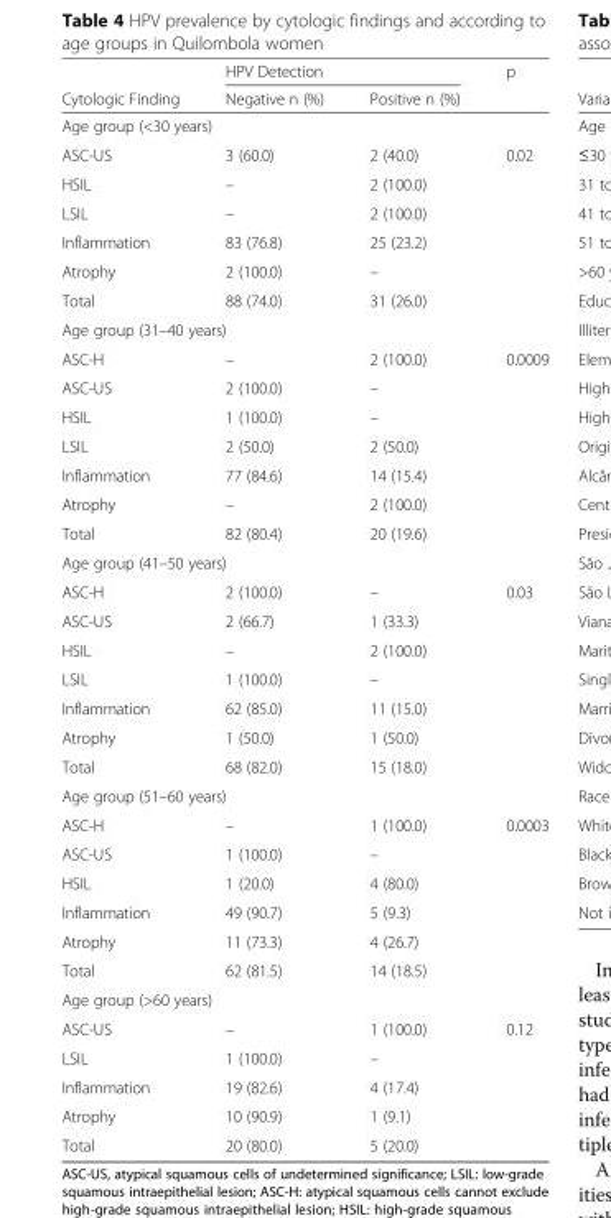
<table><thead><tr><td rowspan="2">Cytologic Finding</td><td colspan="2">HPV Detection</td><td rowspan="2">p</td></tr><tr><td>Negative n (%)</td><td>Positive n (%)</td></tr></thead><tbody><tr><td colspan="4">Age group (&lt;30 years)</td></tr><tr><td>ASC-US</td><td>3 (60.0)</td><td>2 (40.0)</td><td>0.02</td></tr><tr><td>HSIL</td><td>–</td><td>2 (100.0)</td><td></td></tr><tr><td>LSIL</td><td>–</td><td>2 (100.0)</td><td></td></tr><tr><td>Inflammation</td><td>83 (76.8)</td><td>25 (23.2)</td><td></td></tr><tr><td>Atrophy</td><td>2 (100.0)</td><td>–</td><td></td></tr><tr><td>Total</td><td>88 (74.0)</td><td>31 (26.0)</td><td></td></tr><tr><td colspan="4">Age group (31–40 years)</td></tr><tr><td>ASC-H</td><td>–</td><td>2 (100.0)</td><td>0.0009</td></tr><tr><td>ASC-US</td><td>2 (100.0)</td><td>–</td><td></td></tr><tr><td>HSIL</td><td>1 (100.0)</td><td>–</td><td></td></tr><tr><td>LSIL</td><td>2 (50.0)</td><td>2 (50.0)</td><td></td></tr><tr><td>Inflammation</td><td>77 (84.6)</td><td>14 (15.4)</td><td></td></tr><tr><td>Atrophy</td><td>–</td><td>2 (100.0)</td><td></td></tr><tr><td>Total</td><td>82 (80.4)</td><td>20 (19.6)</td><td></td></tr><tr><td colspan="4">Age group (41–50 years)</td></tr><tr><td>ASC-H</td><td>2 (100.0)</td><td>–</td><td>0.03</td></tr><tr><td>ASC-US</td><td>2 (66.7)</td><td>1 (33.3)</td><td></td></tr><tr><td>HSIL</td><td>–</td><td>2 (100.0)</td><td></td></tr><tr><td>LSIL</td><td>1 (100.0)</td><td>–</td><td></td></tr><tr><td>Inflammation</td><td>62 (85.0)</td><td>11 (15.0)</td><td></td></tr><tr><td>Atrophy</td><td>1 (50.0)</td><td>1 (50.0)</td><td></td></tr><tr><td>Total</td><td>68 (82.0)</td><td>15 (18.0)</td><td></td></tr><tr><td colspan="4">Age group (51–60 years)</td></tr><tr><td>ASC-H</td><td>–</td><td>1 (100.0)</td><td>0.0003</td></tr><tr><td>ASC-US</td><td>1 (100.0)</td><td>–</td><td></td></tr><tr><td>HSIL</td><td>1 (20.0)</td><td>4 (80.0)</td><td></td></tr><tr><td>Inflammation</td><td>49 (90.7)</td><td>5 (9.3)</td><td></td></tr><tr><td>Atrophy</td><td>11 (73.3)</td><td>4 (26.7)</td><td></td></tr><tr><td>Total</td><td>62 (81.5)</td><td>14 (18.5)</td><td></td></tr><tr><td colspan="4">Age group (&gt;60 years)</td></tr><tr><td>ASC-US</td><td>–</td><td>1 (100.0)</td><td>0.12</td></tr><tr><td>LSIL</td><td>1 (100.0)</td><td>–</td><td></td></tr><tr><td>Inflammation</td><td>19 (82.6)</td><td>4 (17.4)</td><td></td></tr><tr><td>Atrophy</td><td>10 (90.9)</td><td>1 (9.1)</td><td></td></tr><tr><td>Total</td><td>20 (80.0)</td><td>5 (20.0)</td><td></td></tr></tbody></table>